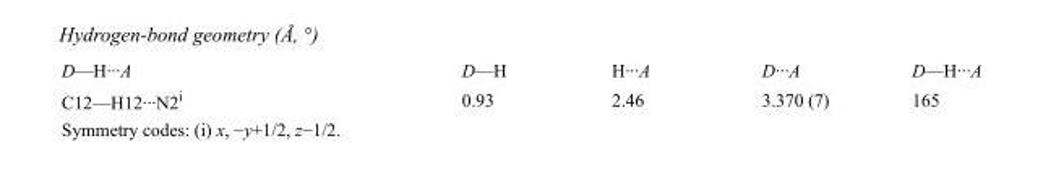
<table><tbody><tr><td>D—H···A</td><td>D—H</td><td>H···A</td><td>D···A</td><td>D—H···A</td></tr><tr><td>C12—H12···N2<sup>i</sup></td><td>0.93</td><td>2.46</td><td>3.370 (7)</td><td>165</td></tr></tbody></table>